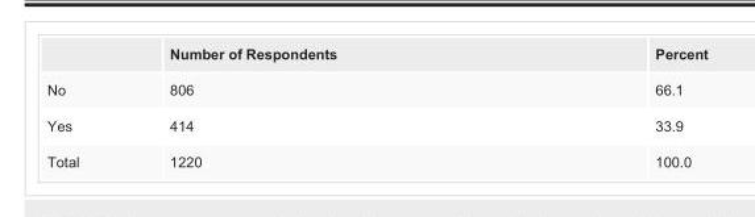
<table><thead><tr><td></td><td>Number of Respondents</td><td>Percent</td></tr></thead><tbody><tr><td>No</td><td>806</td><td>66.1</td></tr><tr><td>Yes</td><td>414</td><td>33.9</td></tr><tr><td>Total</td><td>1220</td><td>100.0</td></tr></tbody></table>